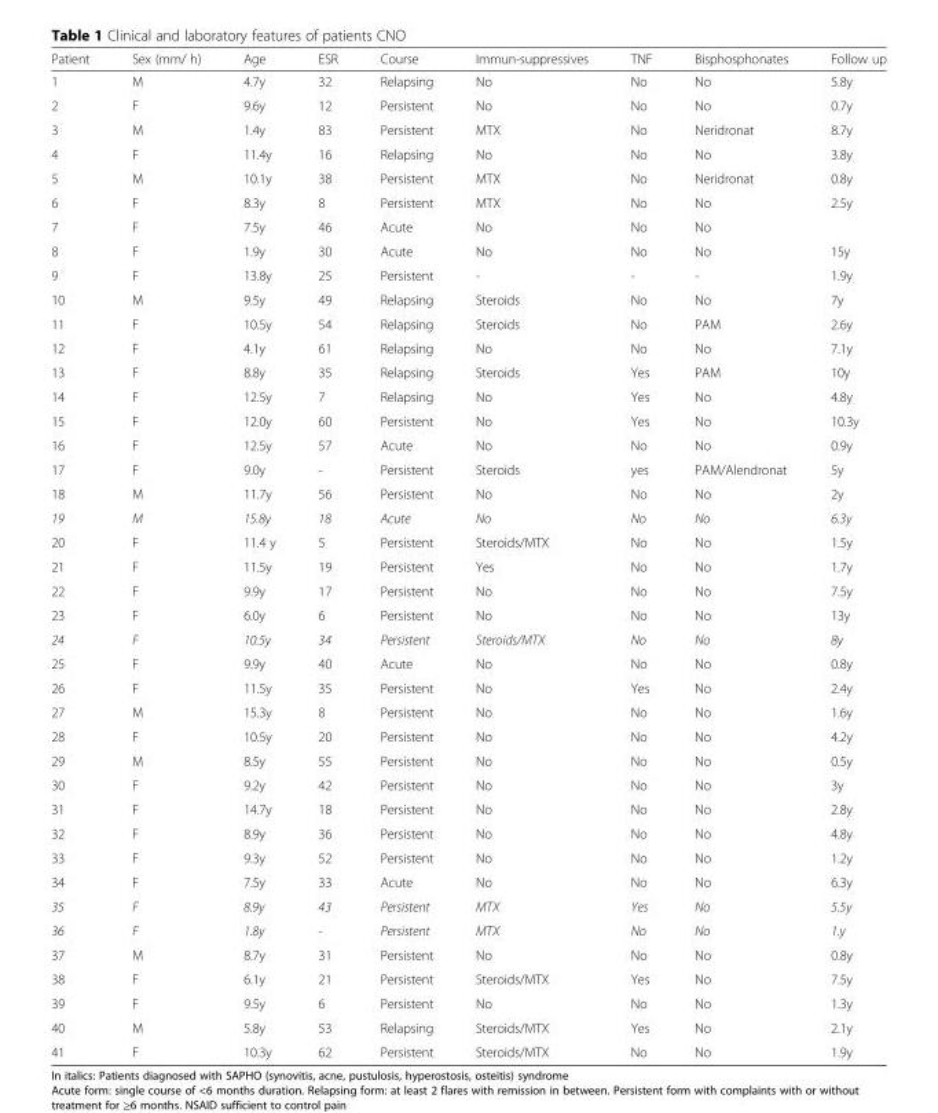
<table><thead><tr><td>Patient</td><td>Sex (mm/ h)</td><td>Age</td><td>ESR</td><td>Course</td><td>Immun-suppressives</td><td>TNF</td><td>Bisphosphonates</td><td>Follow up</td></tr></thead><tbody><tr><td>1</td><td>M</td><td>4.7y</td><td>32</td><td>Relapsing</td><td>No</td><td>No</td><td>No</td><td>5.8y</td></tr><tr><td>2</td><td>F</td><td>9.6y</td><td>12</td><td>Persistent</td><td>No</td><td>No</td><td>No</td><td>0.7y</td></tr><tr><td>3</td><td>M</td><td>1.4y</td><td>83</td><td>Persistent</td><td>MTX</td><td>No</td><td>Neridronat</td><td>8.7y</td></tr><tr><td>4</td><td>F</td><td>11.4y</td><td>16</td><td>Relapsing</td><td>No</td><td>No</td><td>No</td><td>3.8y</td></tr><tr><td>5</td><td>M</td><td>10.1y</td><td>38</td><td>Persistent</td><td>MTX</td><td>No</td><td>Neridronat</td><td>0.8y</td></tr><tr><td>6</td><td>F</td><td>8.3y</td><td>8</td><td>Persistent</td><td>MTX</td><td>No</td><td>No</td><td>2.5y</td></tr><tr><td>7</td><td>F</td><td>7.5y</td><td>46</td><td>Acute</td><td>No</td><td>No</td><td>No</td><td></td></tr><tr><td>8</td><td>F</td><td>1.9y</td><td>30</td><td>Acute</td><td>No</td><td>No</td><td>No</td><td>15y</td></tr><tr><td>9</td><td>F</td><td>13.8y</td><td>25</td><td>Persistent</td><td>-</td><td>-</td><td>-</td><td>1.9y</td></tr><tr><td>10</td><td>M</td><td>9.5y</td><td>49</td><td>Relapsing</td><td>Steroids</td><td>No</td><td>No</td><td>7y</td></tr><tr><td>11</td><td>F</td><td>10.5y</td><td>54</td><td>Relapsing</td><td>Steroids</td><td>No</td><td>PAM</td><td>2.6y</td></tr><tr><td>12</td><td>F</td><td>4.1y</td><td>61</td><td>Relapsing</td><td>No</td><td>No</td><td>No</td><td>7.1y</td></tr><tr><td>13</td><td>F</td><td>8.8y</td><td>35</td><td>Relapsing</td><td>Steroids</td><td>Yes</td><td>PAM</td><td>10y</td></tr><tr><td>14</td><td>F</td><td>12.5y</td><td>7</td><td>Relapsing</td><td>No</td><td>Yes</td><td>No</td><td>4.8y</td></tr><tr><td>15</td><td>F</td><td>12.0y</td><td>60</td><td>Persistent</td><td>No</td><td>Yes</td><td>No</td><td>10.3y</td></tr><tr><td>16</td><td>F</td><td>12.5y</td><td>57</td><td>Acute</td><td>No</td><td>No</td><td>No</td><td>0.9y</td></tr><tr><td>17</td><td>F</td><td>9.0y</td><td>-</td><td>Persistent</td><td>Steroids</td><td>yes</td><td>PAM/Alendronat</td><td>5y</td></tr><tr><td>18</td><td>M</td><td>11.7y</td><td>56</td><td>Persistent</td><td>No</td><td>No</td><td>No</td><td>2y</td></tr><tr><td>19</td><td>M</td><td>15.8y</td><td>18</td><td>Acute</td><td>No</td><td>No</td><td>No</td><td>6.3y</td></tr><tr><td>20</td><td>F</td><td>11.4 y</td><td>5</td><td>Persistent</td><td>Steroids/MTX</td><td>No</td><td>No</td><td>1.5y</td></tr><tr><td>21</td><td>F</td><td>11.5y</td><td>19</td><td>Persistent</td><td>Yes</td><td>No</td><td>No</td><td>1.7y</td></tr><tr><td>22</td><td>F</td><td>9.9y</td><td>17</td><td>Persistent</td><td>No</td><td>No</td><td>No</td><td>7.5y</td></tr><tr><td>23</td><td>F</td><td>6.0y</td><td>6</td><td>Persistent</td><td>No</td><td>No</td><td>No</td><td>13y</td></tr><tr><td>24</td><td>F</td><td>10.5y</td><td>34</td><td>Persistent</td><td>Steroids/MTX</td><td>No</td><td>No</td><td>8y</td></tr><tr><td>25</td><td>F</td><td>9.9y</td><td>40</td><td>Acute</td><td>No</td><td>No</td><td>No</td><td>0.8y</td></tr><tr><td>26</td><td>F</td><td>11.5y</td><td>35</td><td>Persistent</td><td>No</td><td>Yes</td><td>No</td><td>2.4y</td></tr><tr><td>27</td><td>M</td><td>15.3y</td><td>8</td><td>Persistent</td><td>No</td><td>No</td><td>No</td><td>1.6y</td></tr><tr><td>28</td><td>F</td><td>10.5y</td><td>20</td><td>Persistent</td><td>No</td><td>No</td><td>No</td><td>4.2y</td></tr><tr><td>29</td><td>M</td><td>8.5y</td><td>55</td><td>Persistent</td><td>No</td><td>No</td><td>No</td><td>0.5y</td></tr><tr><td>30</td><td>F</td><td>9.2y</td><td>42</td><td>Persistent</td><td>No</td><td>No</td><td>No</td><td>3y</td></tr><tr><td>31</td><td>F</td><td>14.7y</td><td>18</td><td>Persistent</td><td>No</td><td>No</td><td>No</td><td>2.8y</td></tr><tr><td>32</td><td>F</td><td>8.9y</td><td>36</td><td>Persistent</td><td>No</td><td>No</td><td>No</td><td>4.8y</td></tr><tr><td>33</td><td>F</td><td>9.3y</td><td>52</td><td>Persistent</td><td>No</td><td>No</td><td>No</td><td>1.2y</td></tr><tr><td>34</td><td>F</td><td>7.5y</td><td>33</td><td>Acute</td><td>No</td><td>No</td><td>No</td><td>6.3y</td></tr><tr><td>35</td><td>F</td><td>8.9y</td><td>43</td><td>Persistent</td><td>MTX</td><td>Yes</td><td>No</td><td>5.5y</td></tr><tr><td>36</td><td>F</td><td>1.8y</td><td>-</td><td>Persistent</td><td>MTX</td><td>No</td><td>No</td><td>1.y</td></tr><tr><td>37</td><td>M</td><td>8.7y</td><td>31</td><td>Persistent</td><td>No</td><td>No</td><td>No</td><td>0.8y</td></tr><tr><td>38</td><td>F</td><td>6.1y</td><td>21</td><td>Persistent</td><td>Steroids/MTX</td><td>Yes</td><td>No</td><td>7.5y</td></tr><tr><td>39</td><td>F</td><td>9.5y</td><td>6</td><td>Persistent</td><td>No</td><td>No</td><td>No</td><td>1.3y</td></tr><tr><td>40</td><td>M</td><td>5.8y</td><td>53</td><td>Relapsing</td><td>Steroids/MTX</td><td>Yes</td><td>No</td><td>2.1y</td></tr><tr><td>41</td><td>F</td><td>10.3y</td><td>62</td><td>Persistent</td><td>Steroids/MTX</td><td>No</td><td>No</td><td>1.9y</td></tr></tbody></table>